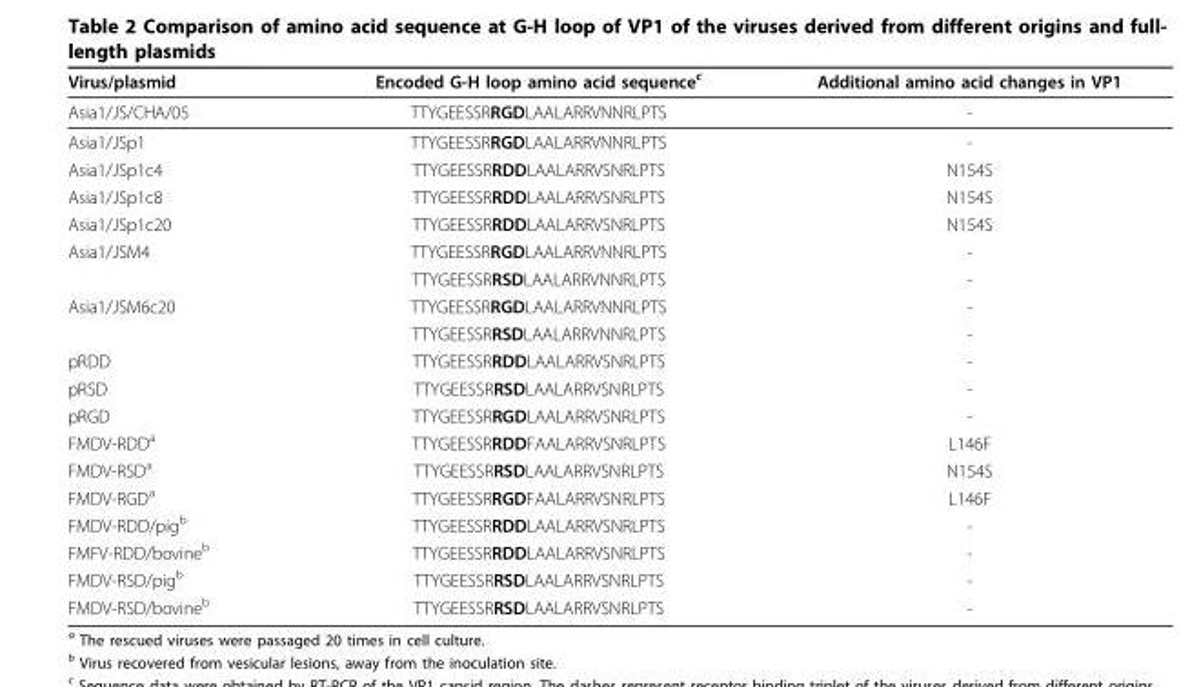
<table><thead><tr><td>Virus/plasmid</td><td>Encoded G-H loop amino acid sequence<sup>c</sup></td><td>Additional amino acid changes in VP1</td></tr></thead><tbody><tr><td>Asia1/JS/CHA/05</td><td>TTYGEESSRRGDLAALARRVNNRLPTS</td><td>-</td></tr><tr><td>Asia1/JSp1</td><td>TTYGEESSRRGDLAALARRVNNRLPTS</td><td>-</td></tr><tr><td>Asia1/JSp1c4</td><td>TTYGEESSRRDDLAALARRVSNRLPTS</td><td>N154S</td></tr><tr><td>Asia1/JSp1c8</td><td>TTYGEESSRRDDLAALARRVSNRLPTS</td><td>N154S</td></tr><tr><td>Asia1/JSp1c20</td><td>TTYGEESSRRDDLAALARRVSNRLPTS</td><td>N154S</td></tr><tr><td rowspan="2">Asia1/JSM4</td><td>TTYGEESSRRGDLAALARRVNNRLPTS</td><td>-</td></tr><tr><td>TTYGEESSRRSDLAALARRVNNRLPTS</td><td>-</td></tr><tr><td rowspan="2">Asia1/JSM6c20</td><td>TTYGEESSRRGDLAALARRVNNRLPTS</td><td>-</td></tr><tr><td>TTYGEESSRRSDLAALARRVNNRLPTS</td><td>-</td></tr><tr><td>pRDD</td><td>TTYGEESSRRDDLAALARRVSNRLPTS</td><td>-</td></tr><tr><td>pRSD</td><td>TTYGEESSRRSDLAALARRVSNRLPTS</td><td>-</td></tr><tr><td>pRGD</td><td>TTYGEESSRRGDLAALARRVSNRLPTS</td><td>-</td></tr><tr><td>FMDV-RDD<sup>a</sup></td><td>TTYGEESSRRDDFAALARRVSNRLPTS</td><td>L146F</td></tr><tr><td>FMDV-RSD<sup>a</sup></td><td>TTYGEESSRRSDLAALARRVSNRLPTS</td><td>N154S</td></tr><tr><td>FMDV-RGD<sup>a</sup></td><td>TTYGEESSRRGDFAALARRVSNRLPTS</td><td>L146F</td></tr><tr><td>FMDV-RDD/pig<sup>b</sup></td><td>TTYGEESSRRDDLAALARRVSNRLPTS</td><td>-</td></tr><tr><td>FMFV-RDD/bovine<sup>b</sup></td><td>TTYGEESSRRDDLAALARRVSNRLPTS</td><td>-</td></tr><tr><td>FMDV-RSD/pig<sup>b</sup></td><td>TTYGEESSRRSDLAALARRVSNRLPTS</td><td>-</td></tr><tr><td>FMDV-RSD/bovine<sup>b</sup></td><td>TTYGEESSRRSDLAALARRVSNRLPTS</td><td>-</td></tr></tbody></table>